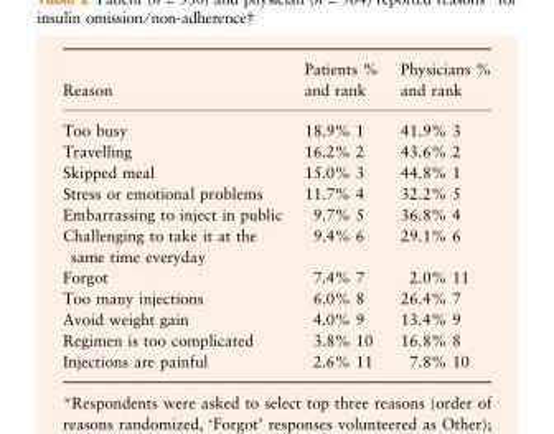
<table><thead><tr><td>Reason</td><td>Patients % and rank</td><td>Physicians % and rank</td></tr></thead><tbody><tr><td>Too busy</td><td>18.9% 1</td><td>41.9% 3</td></tr><tr><td>Travelling</td><td>16.2% 2</td><td>43.6% 2</td></tr><tr><td>Skipped meal</td><td>15.0% 3</td><td>44.8% 1</td></tr><tr><td>Stress or emotional problems</td><td>11.7% 4</td><td>32.2% 5</td></tr><tr><td>Embarrassing to inject in public</td><td>9.7% 5</td><td>36.8% 4</td></tr><tr><td>Challenging to take it at the same time everyday</td><td>9.4% 6</td><td>29.1% 6</td></tr><tr><td>Forgot</td><td>7.4% 7</td><td>2.0% 11</td></tr><tr><td>Too many injections</td><td>6.0% 8</td><td>26.4% 7</td></tr><tr><td>Avoid weight gain</td><td>4.0% 9</td><td>13.4% 9</td></tr><tr><td>Regimen is too complicated</td><td>3.8% 10</td><td>16.8% 8</td></tr><tr><td>Injections are painful</td><td>2.6% 11</td><td>7.8% 10</td></tr></tbody></table>